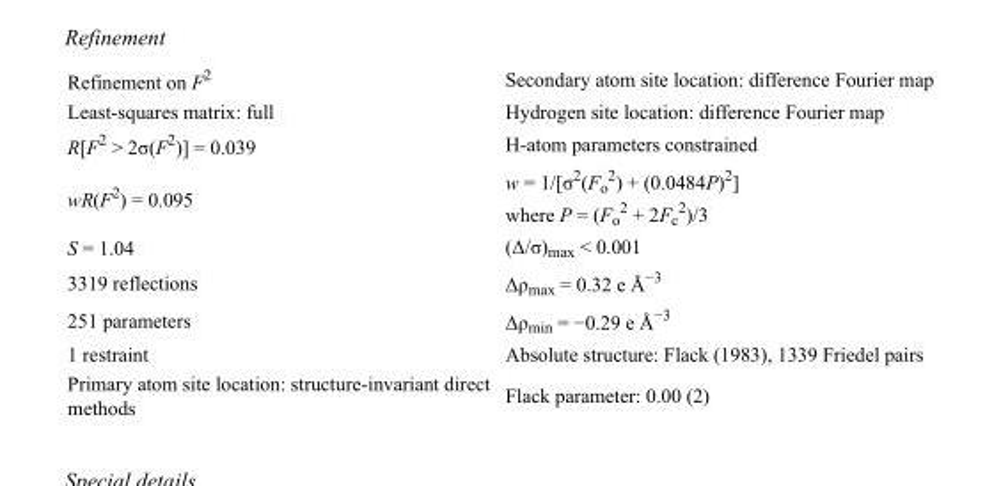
<table><tbody><tr><td>Refinement on F<sup>2</sup></td><td>Secondary atom site location: difference Fourier map</td></tr><tr><td>Least-squares matrix: full</td><td>Hydrogen site location: difference Fourier map</td></tr><tr><td>R[F<sup>2</sup> &gt; 2σ(F<sup>2</sup>)] = 0.039</td><td>H-atom parameters constrained</td></tr><tr><td>wR(F<sup>2</sup>) = 0.095</td><td>w = 1/[σ<sup>2</sup>(F<sub>o</sub> <sup>2</sup>) + (0.0484P)<sup>2</sup>] where P = (F<sub>o</sub> <sup>2</sup> + 2F<sub>c</sub> <sup>2</sup>)/3</td></tr><tr><td>S = 1.04</td><td>(Δ/σ)<sub>max</sub> &lt; 0.001</td></tr><tr><td>3319 reflections</td><td>Δρ<sub>max</sub> = 0.32 e Å<sup>−3</sup></td></tr><tr><td>251 parameters</td><td>Δρ<sub>min</sub> = −0.29 e Å<sup>−3</sup></td></tr><tr><td>1 restraint</td><td>Absolute structure: Flack (1983), 1339 Friedel pairs</td></tr><tr><td>Primary atom site location: structure-invariant direct methods</td><td>Flack parameter: 0.00 (2)</td></tr></tbody></table>